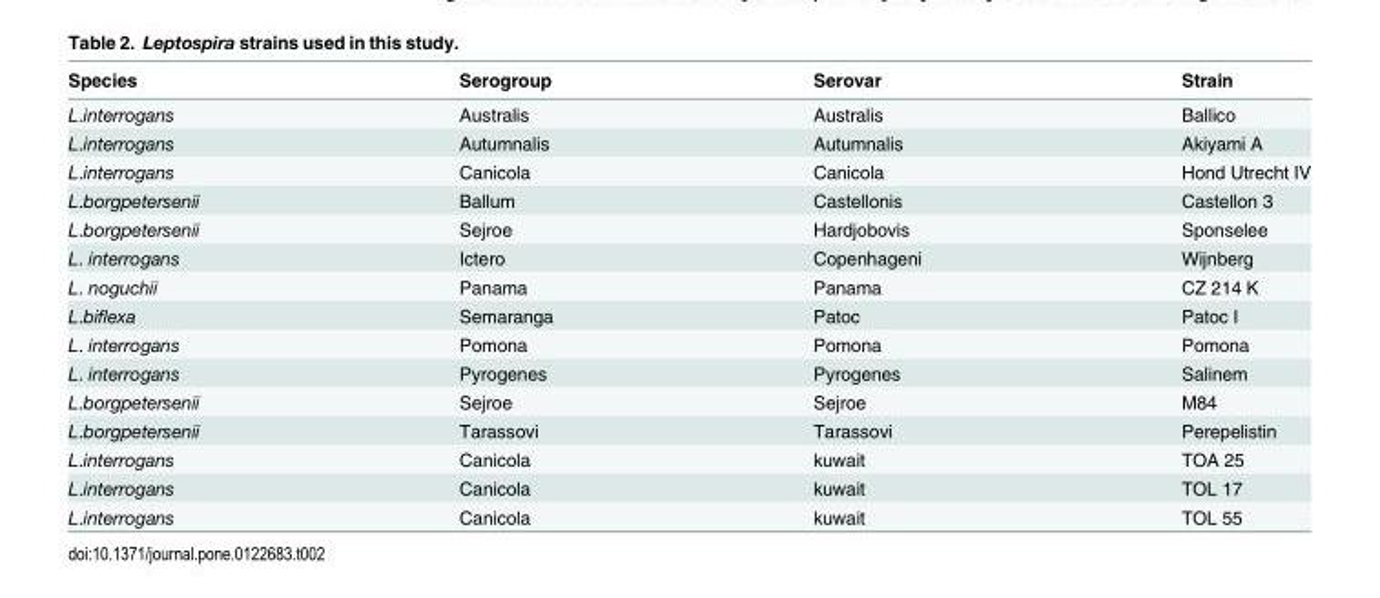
<table><thead><tr><td>Species</td><td>Serogroup</td><td>Serovar</td><td>Strain</td></tr></thead><tbody><tr><td>L.interrogans</td><td>Australis</td><td>Australis</td><td>Ballico</td></tr><tr><td>L.interrogans</td><td>Autumnalis</td><td>Autumnalis</td><td>Akiyami A</td></tr><tr><td>L.interrogans</td><td>Canicola</td><td>Canicola</td><td>Hond Utrecht IV</td></tr><tr><td>L.borgpetersenii</td><td>Ballum</td><td>Castellonis</td><td>Castellon 3</td></tr><tr><td>L.borgpetersenii</td><td>Sejroe</td><td>Hardjobovis</td><td>Sponselee</td></tr><tr><td>L. interrogans</td><td>Ictero</td><td>Copenhageni</td><td>Wijnberg</td></tr><tr><td>L. noguchii</td><td>Panama</td><td>Panama</td><td>CZ 214 K</td></tr><tr><td>L.biflexa</td><td>Semaranga</td><td>Patoc</td><td>Patoc I</td></tr><tr><td>L. interrogans</td><td>Pomona</td><td>Pomona</td><td>Pomona</td></tr><tr><td>L. interrogans</td><td>Pyrogenes</td><td>Pyrogenes</td><td>Salinem</td></tr><tr><td>L.borgpetersenii</td><td>Sejroe</td><td>Sejroe</td><td>M84</td></tr><tr><td>L.borgpetersenii</td><td>Tarassovi</td><td>Tarassovi</td><td>Perepelistin</td></tr><tr><td>L.interrogans</td><td>Canicola</td><td>kuwait</td><td>TOA 25</td></tr><tr><td>L.interrogans</td><td>Canicola</td><td>kuwait</td><td>TOL 17</td></tr><tr><td>L.interrogans</td><td>Canicola</td><td>kuwait</td><td>TOL 55</td></tr></tbody></table>